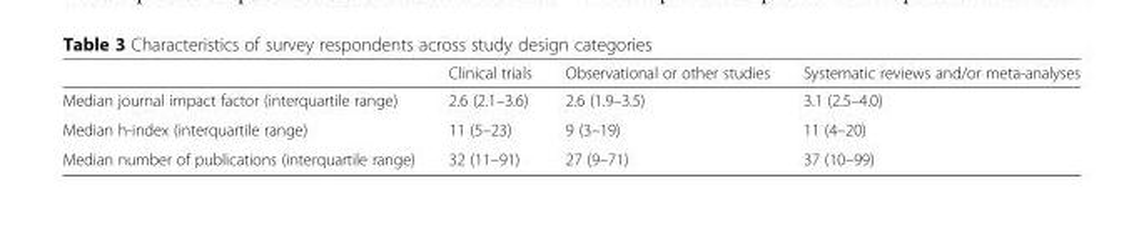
<table><thead><tr><td></td><td>Clinical trials</td><td>Observational or other studies</td><td>Systematic reviews and/or meta-analyses</td></tr></thead><tbody><tr><td>Median journal impact factor (interquartile range)</td><td>2.6 (2.1–3.6)</td><td>2.6 (1.9–3.5)</td><td>3.1 (2.5–4.0)</td></tr><tr><td>Median h-index (interquartile range)</td><td>11 (5–23)</td><td>9 (3–19)</td><td>11 (4–20)</td></tr><tr><td>Median number of publications (interquartile range)</td><td>32 (11–91)</td><td>27 (9–71)</td><td>37 (10–99)</td></tr></tbody></table>